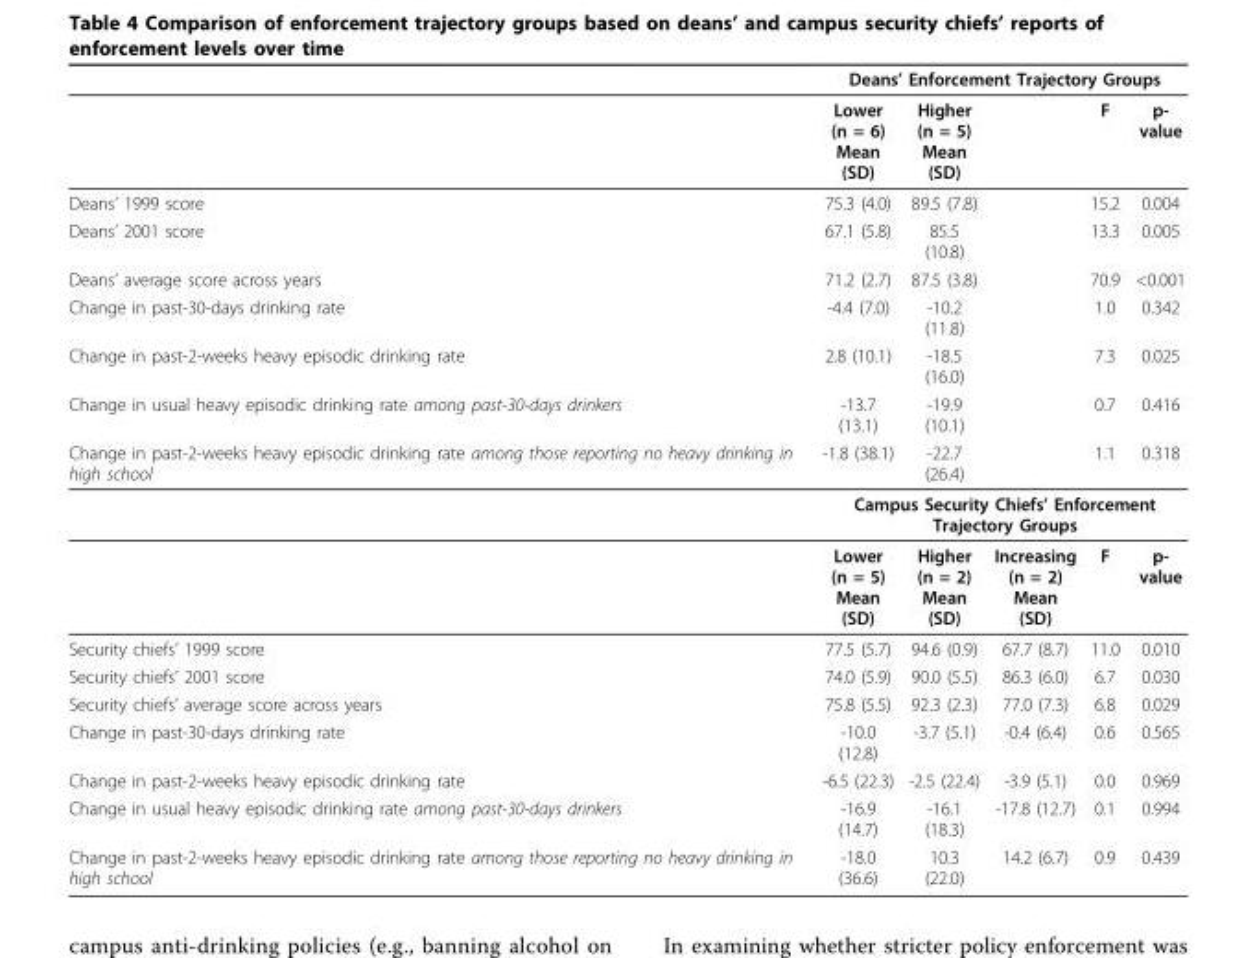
<table><thead><tr><td rowspan="2"></td><td colspan="5">Deans’ Enforcement Trajectory Groups</td></tr><tr><td>Lower (n = 6) Mean (SD)</td><td>Higher (n = 5) Mean (SD)</td><td></td><td>F</td><td>p- value</td></tr></thead><tbody><tr><td>Deans’ 1999 score</td><td>75.3 (4.0)</td><td>89.5 (7.8)</td><td></td><td>15.2</td><td>0.004</td></tr><tr><td>Deans’ 2001 score</td><td>67.1 (5.8)</td><td>85.5 (10.8)</td><td></td><td>13.3</td><td>0.005</td></tr><tr><td>Deans’ average score across years</td><td>71.2 (2.7)</td><td>87.5 (3.8)</td><td></td><td>70.9</td><td>&lt;0.001</td></tr><tr><td>Change in past-30-days drinking rate</td><td>-4.4 (7.0)</td><td>-10.2 (11.8)</td><td></td><td>1.0</td><td>0.342</td></tr><tr><td>Change in past-2-weeks heavy episodic drinking rate</td><td>2.8 (10.1)</td><td>-18.5 (16.0)</td><td></td><td>7.3</td><td>0.025</td></tr><tr><td>Change in usual heavy episodic drinking rate among past-30-days drinkers</td><td>-13.7 (13.1)</td><td>-19.9 (10.1)</td><td></td><td>0.7</td><td>0.416</td></tr><tr><td rowspan="3">Change in past-2-weeks heavy episodic drinking rate among those reporting no heavy drinking in high school</td><td>-1.8 (38.1)</td><td>-22.7 (26.4)</td><td></td><td>1.1</td><td>0.318</td></tr><tr><td colspan="5">Campus Security Chiefs’ Enforcement Trajectory Groups</td></tr><tr><td>Lower (n = 5) Mean (SD)</td><td>Higher (n = 2) Mean (SD)</td><td>Increasing (n = 2) Mean (SD)</td><td>F</td><td>p- value</td></tr><tr><td>Security chiefs’ 1999 score</td><td>77.5 (5.7)</td><td>94.6 (0.9)</td><td>67.7 (8.7)</td><td>11.0</td><td>0.010</td></tr><tr><td>Security chiefs’ 2001 score</td><td>74.0 (5.9)</td><td>90.0 (5.5)</td><td>86.3 (6.0)</td><td>6.7</td><td>0.030</td></tr><tr><td>Security chiefs’ average score across years</td><td>75.8 (5.5)</td><td>92.3 (2.3)</td><td>77.0 (7.3)</td><td>6.8</td><td>0.029</td></tr><tr><td>Change in past-30-days drinking rate</td><td>-10.0 (12.8)</td><td>-3.7 (5.1)</td><td>-0.4 (6.4)</td><td>0.6</td><td>0.565</td></tr><tr><td>Change in past-2-weeks heavy episodic drinking rate</td><td>-6.5 (22.3)</td><td>-2.5 (22.4)</td><td>-3.9 (5.1)</td><td>0.0</td><td>0.969</td></tr><tr><td>Change in usual heavy episodic drinking rate among past-30-days drinkers</td><td>-16.9 (14.7)</td><td>-16.1 (18.3)</td><td>-17.8 (12.7)</td><td>0.1</td><td>0.994</td></tr><tr><td>Change in past-2-weeks heavy episodic drinking rate among those reporting no heavy drinking in high school</td><td>-18.0 (36.6)</td><td>10.3 (22.0)</td><td>14.2 (6.7)</td><td>0.9</td><td>0.439</td></tr></tbody></table>